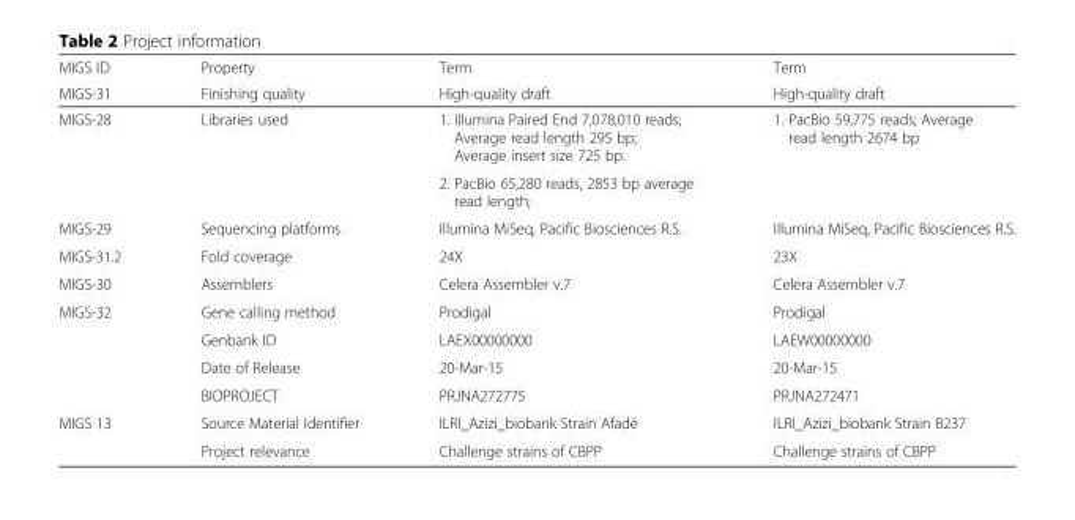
<table><thead><tr><td rowspan="2">MIGS ID MIGS-31</td><td rowspan="2">Property Finishing quality</td><td rowspan="2">Term High-quality draft</td><td rowspan="2">Term High-quality draft</td></tr><tr></tr></thead><tbody><tr><td rowspan="2">MIGS-28</td><td rowspan="2">Libraries used</td><td>1. Illumina Paired End 7,078,010 reads; Average read length 295 bp; Average insert size 725 bp.</td><td rowspan="2">1. PacBio 59,775 reads; Average read length 2674 bp</td></tr><tr><td>2. PacBio 65,280 reads, 2853 bp average read length;</td></tr><tr><td>MIGS-29</td><td>Sequencing platforms</td><td>Illumina MiSeq, Pacific Biosciences R.S.</td><td>Illumina MiSeq, Pacific Biosciences R.S.</td></tr><tr><td>MIGS-31.2</td><td>Fold coverage</td><td>24X</td><td>23X</td></tr><tr><td>MIGS-30</td><td>Assemblers</td><td>Celera Assembler v.7</td><td>Celera Assembler v.7</td></tr><tr><td rowspan="4">MIGS-32</td><td>Gene calling method</td><td>Prodigal</td><td>Prodigal</td></tr><tr><td>Genbank ID</td><td>LAEX00000000</td><td>LAEW00000000</td></tr><tr><td>Date of Release</td><td>20-Mar-15</td><td>20-Mar-15</td></tr><tr><td>BIOPROJECT</td><td>PRJNA272775</td><td>PRJNA272471</td></tr><tr><td rowspan="2">MIGS 13</td><td>Source Material Identifier</td><td>ILRI_Azizi_biobank Strain Afadé</td><td>ILRI_Azizi_biobank Strain B237</td></tr><tr><td>Project relevance</td><td>Challenge strains of CBPP</td><td>Challenge strains of CBPP</td></tr></tbody></table>